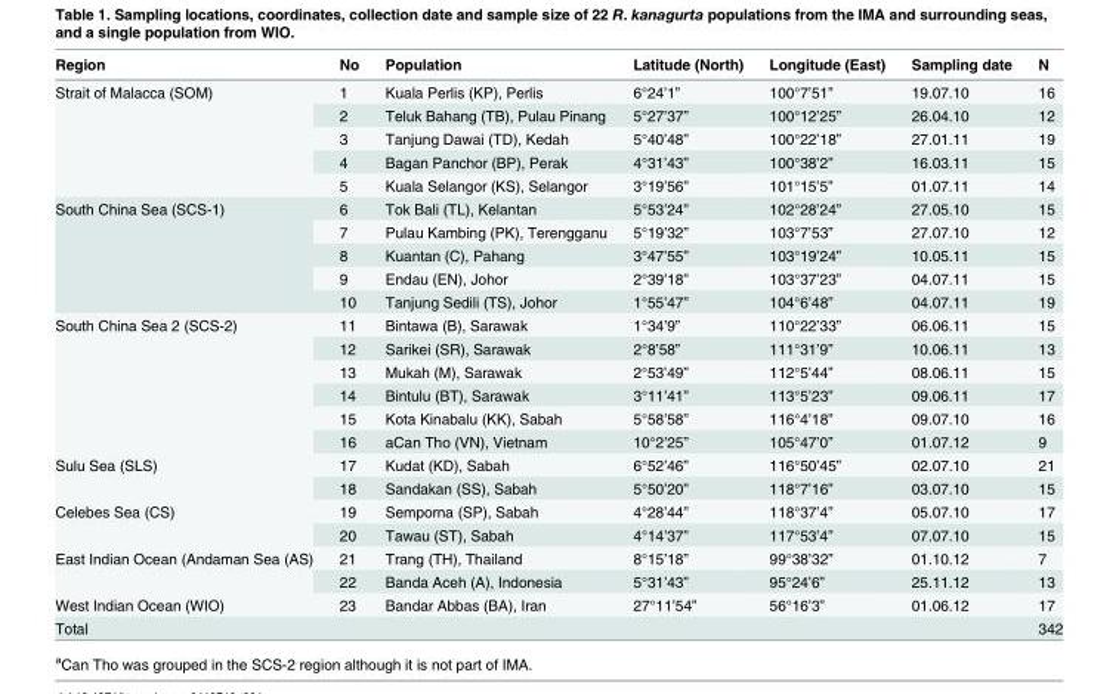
<table><thead><tr><td>Region</td><td>No</td><td>Population</td><td>Latitude (North)</td><td>Longitude (East)</td><td>Sampling date</td><td>N</td></tr></thead><tbody><tr><td rowspan="5">Strait of Malacca (SOM)</td><td>1</td><td>Kuala Perlis (KP), Perlis</td><td>6°24’1”</td><td>100°7’51”</td><td>19.07.10</td><td>16</td></tr><tr><td>2</td><td>Teluk Bahang (TB), Pulau Pinang</td><td>5°27’37”</td><td>100°12’25”</td><td>26.04.10</td><td>12</td></tr><tr><td>3</td><td>Tanjung Dawai (TD), Kedah</td><td>5°40’48”</td><td>100°22’18”</td><td>27.01.11</td><td>19</td></tr><tr><td>4</td><td>Bagan Panchor (BP), Perak</td><td>4°31’43”</td><td>100°38’2”</td><td>16.03.11</td><td>15</td></tr><tr><td>5</td><td>Kuala Selangor (KS), Selangor</td><td>3°19’56”</td><td>101°15’5”</td><td>01.07.11</td><td>14</td></tr><tr><td rowspan="5">South China Sea (SCS-1)</td><td>6</td><td>Tok Bali (TL), Kelantan</td><td>5°53’24”</td><td>102°28’24”</td><td>27.05.10</td><td>15</td></tr><tr><td>7</td><td>Pulau Kambing (PK), Terengganu</td><td>5°19’32”</td><td>103°7’53”</td><td>27.07.10</td><td>12</td></tr><tr><td>8</td><td>Kuantan (C), Pahang</td><td>3°47’55”</td><td>103°19’24”</td><td>10.05.11</td><td>15</td></tr><tr><td>9</td><td>Endau (EN), Johor</td><td>2°39’18”</td><td>103°37’23”</td><td>04.07.11</td><td>15</td></tr><tr><td>10</td><td>Tanjung Sedili (TS), Johor</td><td>1°55’47”</td><td>104°6’48”</td><td>04.07.11</td><td>19</td></tr><tr><td rowspan="6">South China Sea 2 (SCS-2)</td><td>11</td><td>Bintawa (B), Sarawak</td><td>1°34’9”</td><td>110°22’33”</td><td>06.06.11</td><td>15</td></tr><tr><td>12</td><td>Sarikei (SR), Sarawak</td><td>2°8’58”</td><td>111°31’9”</td><td>10.06.11</td><td>13</td></tr><tr><td>13</td><td>Mukah (M), Sarawak</td><td>2°53’49”</td><td>112°5’44”</td><td>08.06.11</td><td>15</td></tr><tr><td>14</td><td>Bintulu (BT), Sarawak</td><td>3°11’41”</td><td>113°5’23”</td><td>09.06.11</td><td>17</td></tr><tr><td>15</td><td>Kota Kinabalu (KK), Sabah</td><td>5°58’58”</td><td>116°4’18”</td><td>09.07.10</td><td>16</td></tr><tr><td>16</td><td>aCan Tho (VN), Vietnam</td><td>10°2’25”</td><td>105°47’0”</td><td>01.07.12</td><td>9</td></tr><tr><td rowspan="2">Sulu Sea (SLS)</td><td>17</td><td>Kudat (KD), Sabah</td><td>6°52’46”</td><td>116°50’45”</td><td>02.07.10</td><td>21</td></tr><tr><td>18</td><td>Sandakan (SS), Sabah</td><td>5°50’20”</td><td>118°7’16”</td><td>03.07.10</td><td>15</td></tr><tr><td rowspan="2">Celebes Sea (CS)</td><td>19</td><td>Semporna (SP), Sabah</td><td>4°28’44”</td><td>118°37’4”</td><td>05.07.10</td><td>17</td></tr><tr><td>20</td><td>Tawau (ST), Sabah</td><td>4°14’37”</td><td>117°53’4”</td><td>07.07.10</td><td>15</td></tr><tr><td rowspan="2">East Indian Ocean (Andaman Sea (AS)</td><td>21</td><td>Trang (TH), Thailand</td><td>8°15’18”</td><td>99°38’32”</td><td>01.10.12</td><td>7</td></tr><tr><td>22</td><td>Banda Aceh (A), Indonesia</td><td>5°31’43”</td><td>95°24’6”</td><td>25.11.12</td><td>13</td></tr><tr><td>West Indian Ocean (WIO)</td><td>23</td><td>Bandar Abbas (BA), Iran</td><td>27°11’54”</td><td>56°16’3”</td><td>01.06.12</td><td>17</td></tr><tr><td colspan="6">Total</td><td>342</td></tr></tbody></table>